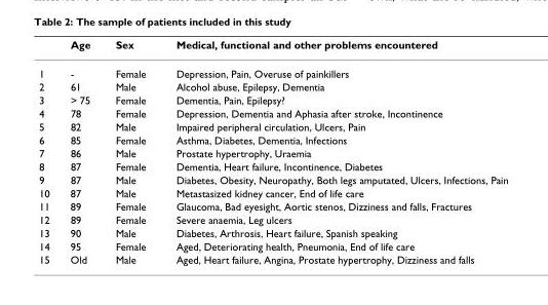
<table><thead><tr><td></td><td>Age</td><td>Sex</td><td>Medical, functional and other problems encountered</td></tr></thead><tbody><tr><td>1</td><td>-</td><td>Female</td><td>Depression, Pain, Overuse of painkillers</td></tr><tr><td>2</td><td>61</td><td>Male</td><td>Alcohol abuse, Epilepsy, Dementia</td></tr><tr><td>3</td><td>&gt; 75</td><td>Female</td><td>Dementia, Pain, Epilepsy?</td></tr><tr><td>4</td><td>78</td><td>Female</td><td>Depression, Dementia and Aphasia after stroke, Incontinence</td></tr><tr><td>5</td><td>82</td><td>Male</td><td>Impaired peripheral circulation, Ulcers, Pain</td></tr><tr><td>6</td><td>85</td><td>Female</td><td>Asthma, Diabetes, Dementia, Infections</td></tr><tr><td>7</td><td>86</td><td>Male</td><td>Prostate hypertrophy, Uraemia</td></tr><tr><td>8</td><td>87</td><td>Female</td><td>Dementia, Heart failure, Incontinence, Diabetes</td></tr><tr><td>9</td><td>87</td><td>Male</td><td>Diabetes, Obesity, Neuropathy, Both legs amputated, Ulcers, Infections, Pain</td></tr><tr><td>10</td><td>87</td><td>Male</td><td>Metastasized kidney cancer, End of life care</td></tr><tr><td>11</td><td>89</td><td>Female</td><td>Glaucoma, Bad eyesight, Aortic stenos, Dizziness and falls, Fractures</td></tr><tr><td>12</td><td>89</td><td>Female</td><td>Severe anaemia, Leg ulcers</td></tr><tr><td>13</td><td>90</td><td>Male</td><td>Diabetes, Arthrosis, Heart failure, Spanish speaking</td></tr><tr><td>14</td><td>95</td><td>Female</td><td>Aged, Deteriorating health, Pneumonia, End of life care</td></tr><tr><td>15</td><td>Old</td><td>Male</td><td>Aged, Heart failure, Angina, Prostate hypertrophy, Dizziness and falls</td></tr></tbody></table>